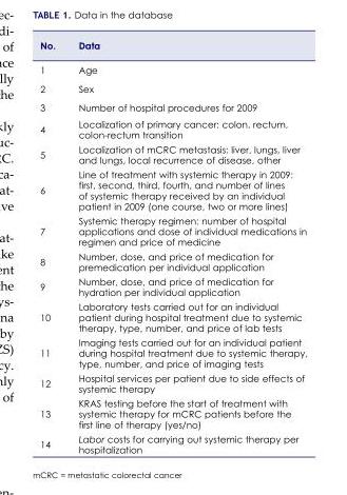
<table><thead><tr><td>No.</td><td>Data</td></tr></thead><tbody><tr><td>1</td><td>Age</td></tr><tr><td>2</td><td>Sex</td></tr><tr><td>3</td><td>Number of hospital procedures for 2009</td></tr><tr><td>4</td><td>Localization of primary cancer: colon, rectum, colon-rectum transition</td></tr><tr><td>5</td><td>Localization of mCRC metastasis: liver, lungs, liver and lungs, local recurrence of disease, other</td></tr><tr><td>6</td><td>Line of treatment with systemic therapy in 2009: first, second, third, fourth, and number of lines of systemic therapy received by an individual patient in 2009 (one course, two or more lines)</td></tr><tr><td>7</td><td>Systemic therapy regimen: number of hospital applications and dose of individual medications in regimen and price of medicine</td></tr><tr><td>8</td><td>Number, dose, and price of medication for premedication per individual application</td></tr><tr><td>9</td><td>Number, dose, and price of medication for hydration per individual application</td></tr><tr><td>10</td><td>Laboratory tests carried out for an individual patient during hospital treatment due to systemic therapy, type, number, and price of lab tests</td></tr><tr><td>11</td><td>Imaging tests carried out for an individual patient during hospital treatment due to systemic therapy, type, number, and price of imaging tests</td></tr><tr><td>12</td><td>Hospital services per patient due to side effects of systemic therapy</td></tr><tr><td>13</td><td>KRAS testing before the start of treatment with systemic therapy for mCRC patients before the first line of therapy (yes/no)</td></tr><tr><td>14</td><td>Labor costs for carrying out systemic therapy per hospitalization</td></tr></tbody></table>